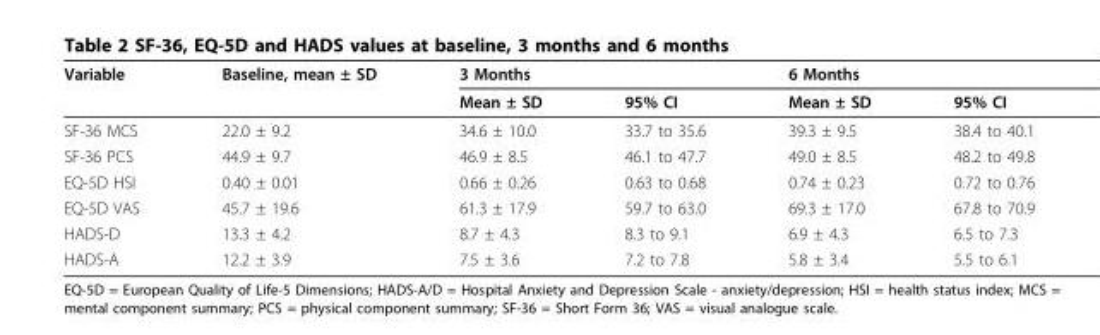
<table><thead><tr><td rowspan="2">Variable</td><td rowspan="2">Baseline, mean ± SD</td><td colspan="2">3 Months</td><td colspan="2">6 Months</td></tr><tr><td>Mean ± SD</td><td>95% CI</td><td>Mean ± SD</td><td>95% CI</td></tr></thead><tbody><tr><td>SF-36 MCS</td><td>22.0 ± 9.2</td><td>34.6 ± 10.0</td><td>33.7 to 35.6</td><td>39.3 ± 9.5</td><td>38.4 to 40.1</td></tr><tr><td>SF-36 PCS</td><td>44.9 ± 9.7</td><td>46.9 ± 8.5</td><td>46.1 to 47.7</td><td>49.0 ± 8.5</td><td>48.2 to 49.8</td></tr><tr><td>EQ-5D HSI</td><td>0.40 ± 0.01</td><td>0.66 ± 0.26</td><td>0.63 to 0.68</td><td>0.74 ± 0.23</td><td>0.72 to 0.76</td></tr><tr><td>EQ-5D VAS</td><td>45.7 ± 19.6</td><td>61.3 ± 17.9</td><td>59.7 to 63.0</td><td>69.3 ± 17.0</td><td>67.8 to 70.9</td></tr><tr><td>HADS-D</td><td>13.3 ± 4.2</td><td>8.7 ± 4.3</td><td>8.3 to 9.1</td><td>6.9 ± 4.3</td><td>6.5 to 7.3</td></tr><tr><td>HADS-A</td><td>12.2 ± 3.9</td><td>7.5 ± 3.6</td><td>7.2 to 7.8</td><td>5.8 ± 3.4</td><td>5.5 to 6.1</td></tr></tbody></table>